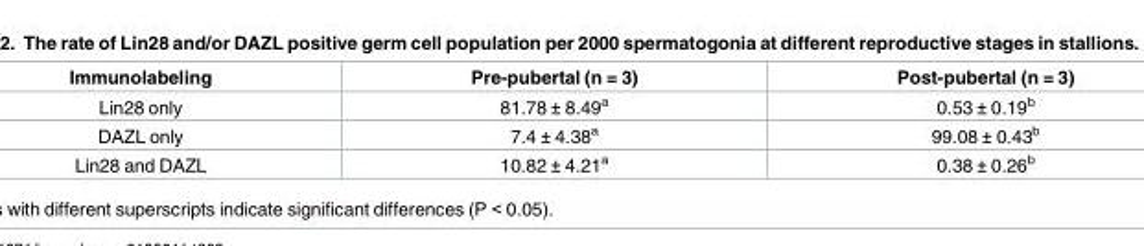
<table><thead><tr><td>Immunolabeling</td><td>Pre-pubertal (n = 3)</td><td>Post-pubertal (n = 3)</td></tr></thead><tbody><tr><td>Lin28 only</td><td>81.78 ± 8.49<sup>a</sup></td><td>0.53 ± 0.19<sup>b</sup></td></tr><tr><td>DAZL only</td><td>7.4 ± 4.38<sup>a</sup></td><td>99.08 ± 0.43<sup>b</sup></td></tr><tr><td>Lin28 and DAZL</td><td>10.82 ± 4.21<sup>a</sup></td><td>0.38 ± 0.26<sup>b</sup></td></tr></tbody></table>